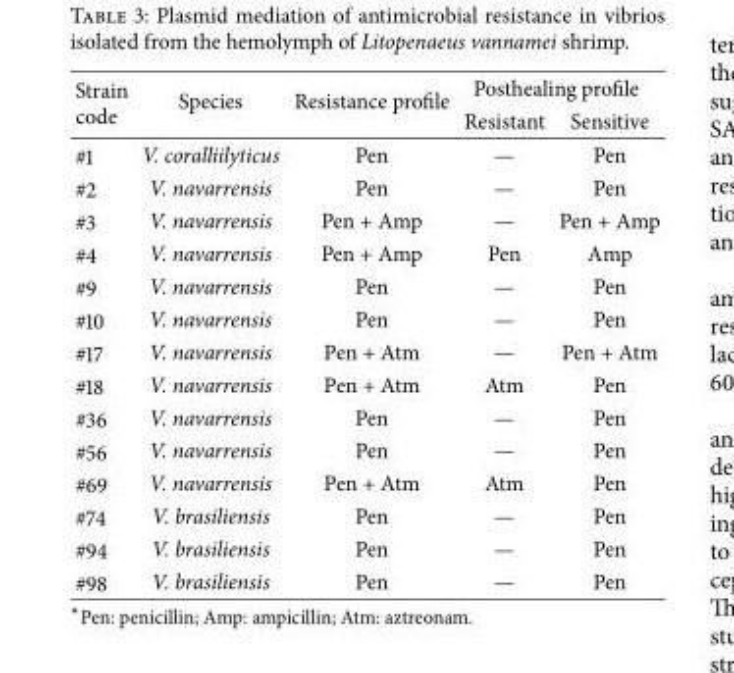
<table><thead><tr><td rowspan="2">Strain code</td><td rowspan="2">Species</td><td rowspan="2">Resistance profile</td><td colspan="2">Posthealing profile</td></tr><tr><td>Resistant</td><td>Sensitive</td></tr></thead><tbody><tr><td>#1</td><td>V. coralliilyticus</td><td>Pen</td><td>—</td><td>Pen</td></tr><tr><td>#2</td><td>V. navarrensis</td><td>Pen</td><td>—</td><td>Pen</td></tr><tr><td>#3</td><td>V. navarrensis</td><td>Pen + Amp</td><td>—</td><td>Pen + Amp</td></tr><tr><td>#4</td><td>V. navarrensis</td><td>Pen + Amp</td><td>Pen</td><td>Amp</td></tr><tr><td>#9</td><td>V. navarrensis</td><td>Pen</td><td>—</td><td>Pen</td></tr><tr><td>#10</td><td>V. navarrensis</td><td>Pen</td><td>—</td><td>Pen</td></tr><tr><td>#17</td><td>V. navarrensis</td><td>Pen + Atm</td><td>—</td><td>Pen + Atm</td></tr><tr><td>#18</td><td>V. navarrensis</td><td>Pen + Atm</td><td>Atm</td><td>Pen</td></tr><tr><td>#36</td><td>V. navarrensis</td><td>Pen</td><td>—</td><td>Pen</td></tr><tr><td>#56</td><td>V. navarrensis</td><td>Pen</td><td>—</td><td>Pen</td></tr><tr><td>#69</td><td>V. navarrensis</td><td>Pen + Atm</td><td>Atm</td><td>Pen</td></tr><tr><td>#74</td><td>V. brasiliensis</td><td>Pen</td><td>—</td><td>Pen</td></tr><tr><td>#94</td><td>V. brasiliensis</td><td>Pen</td><td>—</td><td>Pen</td></tr><tr><td>#98</td><td>V. brasiliensis</td><td>Pen</td><td>—</td><td>Pen</td></tr></tbody></table>